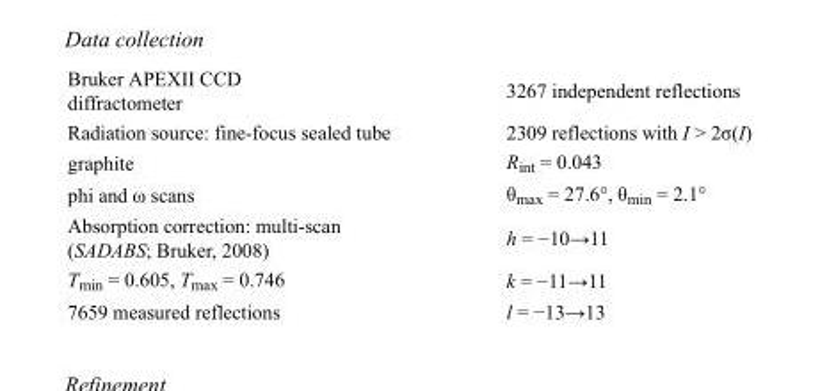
<table><tbody><tr><td>Bruker APEXII CCD diffractometer</td><td>3267 independent reflections</td></tr><tr><td>Radiation source: fine-focus sealed tube</td><td>2309 reflections with I &gt; 2σ(I)</td></tr><tr><td>graphite</td><td>R<sub>int</sub> = 0.043</td></tr><tr><td>phi and ω scans</td><td>θ<sub>max</sub> = 27.6°, θ<sub>min</sub> = 2.1°</td></tr><tr><td>Absorption correction: multi-scan (SADABS; Bruker, 2008)</td><td>h = −10→11</td></tr><tr><td>T<sub>min</sub> = 0.605, T<sub>max</sub> = 0.746</td><td>k = −11→11</td></tr><tr><td>7659 measured reflections</td><td>l = −13→13</td></tr></tbody></table>